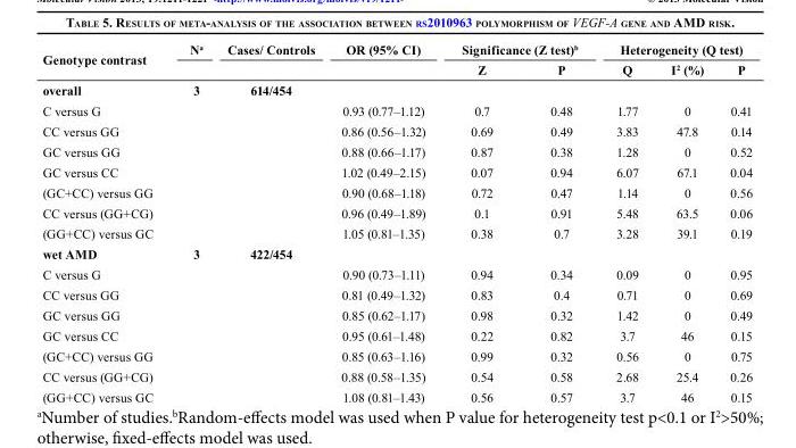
<table><thead><tr><td rowspan="2">Genotype contrast</td><td rowspan="2">N<sup>a</sup></td><td rowspan="2">Cases/ Controls</td><td rowspan="2">OR (95% CI)</td><td colspan="2">Significance (Z test)<sup>b</sup></td><td colspan="3">Heterogeneity (Q test)</td></tr><tr><td>Z</td><td>P</td><td>Q</td><td>I<sup>2</sup> (%)</td><td>P</td></tr></thead><tbody><tr><td>overall</td><td>3</td><td>614/454</td><td></td><td></td><td></td><td></td><td></td><td></td></tr><tr><td>C versus G</td><td></td><td></td><td>0.93 (0.77–1.12)</td><td>0.7</td><td>0.48</td><td>1.77</td><td>0</td><td>0.41</td></tr><tr><td>CC versus GG</td><td></td><td></td><td>0.86 (0.56–1.32)</td><td>0.69</td><td>0.49</td><td>3.83</td><td>47.8</td><td>0.14</td></tr><tr><td>GC versus GG</td><td></td><td></td><td>0.88 (0.66–1.17)</td><td>0.87</td><td>0.38</td><td>1.28</td><td>0</td><td>0.52</td></tr><tr><td>GC versus CC</td><td></td><td></td><td>1.02 (0.49–2.15)</td><td>0.07</td><td>0.94</td><td>6.07</td><td>67.1</td><td>0.04</td></tr><tr><td>(GC+CC) versus GG</td><td></td><td></td><td>0.90 (0.68–1.18)</td><td>0.72</td><td>0.47</td><td>1.14</td><td>0</td><td>0.56</td></tr><tr><td>CC versus (GG+CG)</td><td></td><td></td><td>0.96 (0.49–1.89)</td><td>0.1</td><td>0.91</td><td>5.48</td><td>63.5</td><td>0.06</td></tr><tr><td>(GG+CC) versus GC</td><td></td><td></td><td>1.05 (0.81–1.35)</td><td>0.38</td><td>0.7</td><td>3.28</td><td>39.1</td><td>0.19</td></tr><tr><td>wet AMD</td><td>3</td><td>422/454</td><td></td><td></td><td></td><td></td><td></td><td></td></tr><tr><td>C versus G</td><td></td><td></td><td>0.90 (0.73–1.11)</td><td>0.94</td><td>0.34</td><td>0.09</td><td>0</td><td>0.95</td></tr><tr><td>CC versus GG</td><td></td><td></td><td>0.81 (0.49–1.32)</td><td>0.83</td><td>0.4</td><td>0.71</td><td>0</td><td>0.69</td></tr><tr><td>GC versus GG</td><td></td><td></td><td>0.85 (0.62–1.17)</td><td>0.98</td><td>0.32</td><td>1.42</td><td>0</td><td>0.49</td></tr><tr><td>GC versus CC</td><td></td><td></td><td>0.95 (0.61–1.48)</td><td>0.22</td><td>0.82</td><td>3.7</td><td>46</td><td>0.15</td></tr><tr><td>(GC+CC) versus GG</td><td></td><td></td><td>0.85 (0.63–1.16)</td><td>0.99</td><td>0.32</td><td>0.56</td><td>0</td><td>0.75</td></tr><tr><td>CC versus (GG+CG)</td><td></td><td></td><td>0.88 (0.58–1.35)</td><td>0.54</td><td>0.58</td><td>2.68</td><td>25.4</td><td>0.26</td></tr><tr><td>(GG+CC) versus GC</td><td></td><td></td><td>1.08 (0.81–1.43)</td><td>0.56</td><td>0.57</td><td>3.7</td><td>46</td><td>0.15</td></tr></tbody></table>